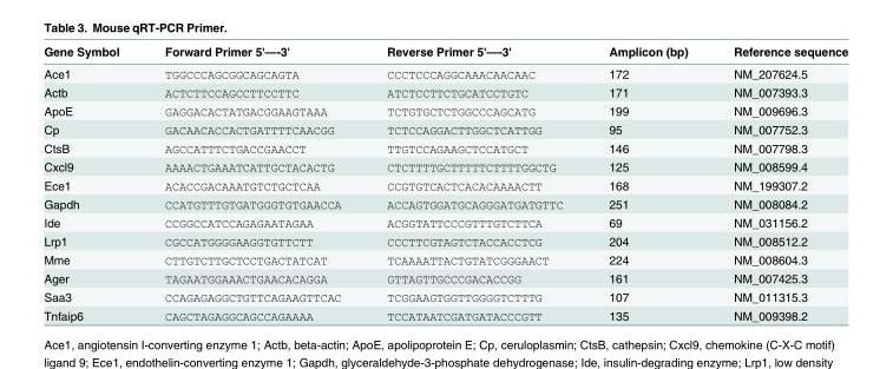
<table><thead><tr><td>Gene Symbol</td><td>Forward Primer 5&#x27;—-3&#x27;</td><td>Reverse Primer 5&#x27;—-3&#x27;</td><td>Amplicon (bp)</td><td>Reference sequence</td></tr></thead><tbody><tr><td>Ace1</td><td>TGGCCCAGCGGCAGCAGTA</td><td>CCCTCCCAGGCAAACAACAAC</td><td>172</td><td>NM_207624.5</td></tr><tr><td>Actb</td><td>ACTCTTCCAGCCTTCCTTC</td><td>ATCTCCTTCTGCATCCTGTC</td><td>171</td><td>NM_007393.3</td></tr><tr><td>ApoE</td><td>GAGGACACTATGACGGAAGTAAA</td><td>TCTGTGCTCTGGCCCAGCATG</td><td>199</td><td>NM_009696.3</td></tr><tr><td>Cp</td><td>GACAACACCACTGATTTTCAACGG</td><td>TCTCCAGGACTTGGCTCATTGG</td><td>95</td><td>NM_007752.3</td></tr><tr><td>CtsB</td><td>AGCCATTTCTGACCGAACCT</td><td>TTGTCCAGAAGCTCCATGCT</td><td>146</td><td>NM_007798.3</td></tr><tr><td>Cxcl9</td><td>AAAACTGAAATCATTGCTACACTG</td><td>CTCTTTTGCTTTTTCTTTTGGCTG</td><td>125</td><td>NM_008599.4</td></tr><tr><td>Ece1</td><td>ACACCGACAAATGTCTGCTCAA</td><td>CCGTGTCACTCACACAAAACTT</td><td>168</td><td>NM_199307.2</td></tr><tr><td>Gapdh</td><td>CCATGTTTGTGATGGGTGTGAACCA</td><td>ACCAGTGGATGCAGGGATGATGTTC</td><td>251</td><td>NM_008084.2</td></tr><tr><td>Ide</td><td>CCGGCCATCCAGAGAATAGAA</td><td>ACGGTATTCCCGTTTGTCTTCA</td><td>69</td><td>NM_031156.2</td></tr><tr><td>Lrp1</td><td>CGCCATGGGGAAGGTGTTCTT</td><td>CCCTTCGTAGTCTACCACCTCG</td><td>204</td><td>NM_008512.2</td></tr><tr><td>Mme</td><td>CTTGTCTTGCTCCTGACTATCAT</td><td>TCAAAATTACTGTATCGGGAACT</td><td>224</td><td>NM_008604.3</td></tr><tr><td>Ager</td><td>TAGAATGGAAACTGAACACAGGA</td><td>GTTAGTTGCCCGACACCGG</td><td>161</td><td>NM_007425.3</td></tr><tr><td>Saa3</td><td>CCAGAGAGGCTGTTCAGAAGTTCAC</td><td>TCGGAAGTGGTTGGGGTCTTTG</td><td>107</td><td>NM_011315.3</td></tr><tr><td>Tnfaip6</td><td>CAGCTAGAGGCAGCCAGAAAA</td><td>TCCATAATCGATGATACCCGTT</td><td>135</td><td>NM_009398.2</td></tr></tbody></table>